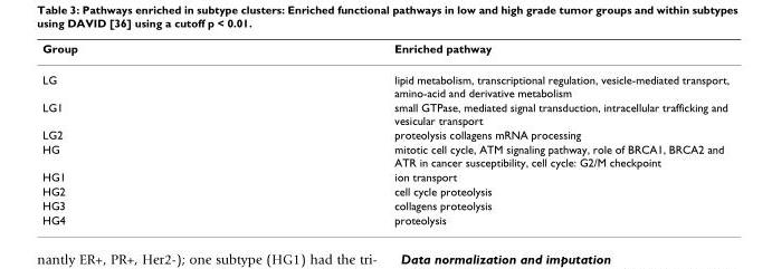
<table><thead><tr><td>Group</td><td>Enriched pathway</td></tr></thead><tbody><tr><td>LG</td><td>lipid metabolism, transcriptional regulation, vesicle-mediated transport, amino-acid and derivative metabolism</td></tr><tr><td>LG1</td><td>small GTPase, mediated signal transduction, intracellular trafficking and vesicular transport</td></tr><tr><td>LG2</td><td>proteolysis collagens mRNA processing</td></tr><tr><td>HG</td><td>mitotic cell cycle, ATM signaling pathway, role of BRCA1, BRCA2 and ATR in cancer susceptibility, cell cycle: G2/M checkpoint</td></tr><tr><td>HG1</td><td>ion transport</td></tr><tr><td>HG2</td><td>cell cycle proteolysis</td></tr><tr><td>HG3</td><td>collagens proteolysis</td></tr><tr><td>HG4</td><td>proteolysis</td></tr></tbody></table>